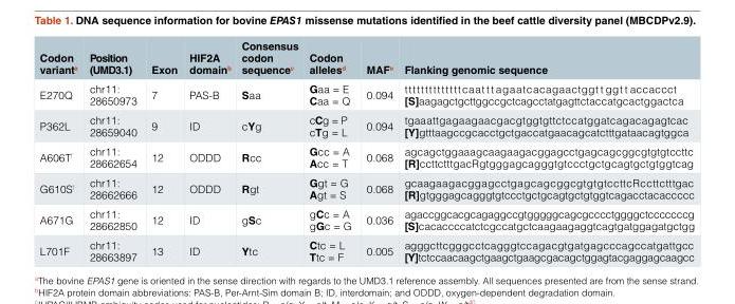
<table><thead><tr><td>Codon variant<sup>a</sup></td><td>Position (UMD3.1)</td><td>Exon</td><td>HIF2A domain<sup>b</sup></td><td>Consensus codon sequence<sup>c</sup></td><td>Codon alleles<sup>d</sup></td><td>MAF<sup>e</sup></td><td>Flanking genomic sequence</td></tr></thead><tbody><tr><td>E270Q</td><td>chr11: 28650973</td><td>7</td><td>PAS-B</td><td>Saa</td><td>Gaa = E Caa = Q</td><td>0.094</td><td>ttttttttttttttcaat t t agaatcacagaactggt t ggt t accaccct [S]aagagctgcttggccgctcagcctatgagttctaccatgcactggactca</td></tr><tr><td>P362L</td><td>chr11: 28659040</td><td>9</td><td>ID</td><td>cYg</td><td>cCg = P cTg = L</td><td>0.094</td><td>tgaaattgagaagaacgacgtggtgttctccatggatcagacagagtcac [Y]gtttaagccgcacctgctgaccatgaacagcatctttgataacagtggca</td></tr><tr><td>A606T<sup>f</sup></td><td>chr11: 28662654</td><td>12</td><td>ODDD</td><td>Rcc</td><td>Gcc = A Acc = T</td><td>0.068</td><td>agcagctggaaagcaagaagacggagcctgagcagcggcgtgtgtccttc [R]ccttctttgacRgtgggagcagggtgtccctgctgcagtgctgtggtcag</td></tr><tr><td>G610S<sup>f</sup></td><td>chr11: 28662666</td><td>12</td><td>ODDD</td><td>Rgt</td><td>Ggt = G Agt = S</td><td>0.068</td><td>gcaagaagacggagcctgagcagcggcgtgtgtccttcRccttctttgac [R]gtgggagcagggtgtccctgctgcagtgctgtggtcagacctacaccccc</td></tr><tr><td>A671G</td><td>chr11: 28662850</td><td>12</td><td>ID</td><td>gSc</td><td>gCc = A gGc = G</td><td>0.036</td><td>agaccggcacgcagaggccgtgggggcagcgcccctggggctcccccccg [S]cacaccccatctcgccatgctcaagaagaggtcagtgatggagatgctgg</td></tr><tr><td>L701F</td><td>chr11: 28663897</td><td>13</td><td>ID</td><td>Ytc</td><td>Ctc = L Ttc = F</td><td>0.005</td><td>agggcttcgggcctcagggtccagacgtgatgagcccagccatgattgcc [Y]tctccaacaagctgaagctgaagcgacagctggagtacgaggagcaagcc</td></tr></tbody></table>